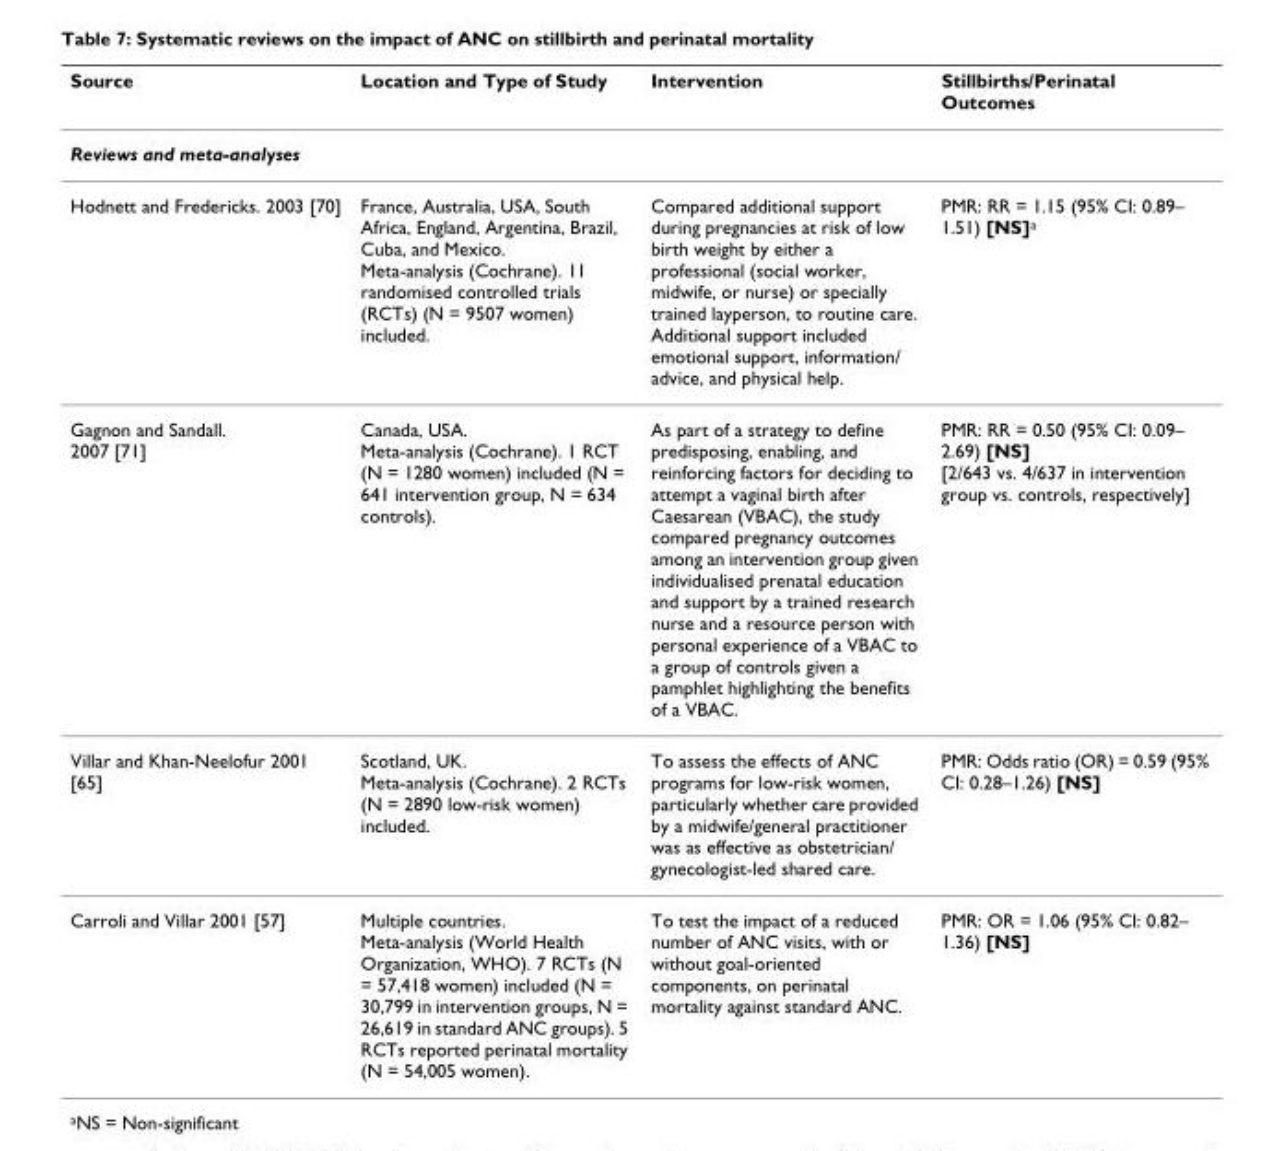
<table><thead><tr><td>Source</td><td>Location and Type of Study</td><td>Intervention</td><td>Stillbirths/Perinatal Outcomes</td></tr></thead><tbody><tr><td colspan="4">Reviews and meta-analyses</td></tr><tr><td>Hodnett and Fredericks. 2003 [70]</td><td>France, Australia, USA, South Africa, England, Argentina, Brazil, Cuba, and Mexico. Meta-analysis (Cochrane). 11 randomised controlled trials (RCTs) (N = 9507 women) included.</td><td>Compared additional support during pregnancies at risk of low birth weight by either a professional (social worker, midwife, or nurse) or specially trained layperson, to routine care. Additional support included emotional support, information/ advice, and physical help.</td><td>PMR: RR = 1.15 (95% CI: 0.89– 1.51) [NS]<sup>a</sup></td></tr><tr><td>Gagnon and Sandall. 2007 [71]</td><td>Canada, USA. Meta-analysis (Cochrane). 1 RCT (N = 1280 women) included (N = 641 intervention group, N = 634 controls).</td><td>As part of a strategy to define predisposing, enabling, and reinforcing factors for deciding to attempt a vaginal birth after Caesarean (VBAC), the study compared pregnancy outcomes among an intervention group given individualised prenatal education and support by a trained research nurse and a resource person with personal experience of a VBAC to a group of controls given a pamphlet highlighting the benefits of a VBAC.</td><td>PMR: RR = 0.50 (95% CI: 0.09– 2.69) [NS] [2/643 vs. 4/637 in intervention group vs. controls, respectively]</td></tr><tr><td>Villar and Khan-Neelofur 2001 [65]</td><td>Scotland, UK. Meta-analysis (Cochrane). 2 RCTs (N = 2890 low-risk women) included.</td><td>To assess the effects of ANC programs for low-risk women, particularly whether care provided by a midwife/general practitioner was as effective as obstetrician/ gynecologist-led shared care.</td><td>PMR: Odds ratio (OR) = 0.59 (95% CI: 0.28–1.26) [NS]</td></tr><tr><td>Carroli and Villar 2001 [57]</td><td>Multiple countries. Meta-analysis (World Health Organization, WHO). 7 RCTs (N = 57,418 women) included (N = 30,799 in intervention groups, N = 26,619 in standard ANC groups). 5 RCTs reported perinatal mortality (N = 54,005 women).</td><td>To test the impact of a reduced number of ANC visits, with or without goal-oriented components, on perinatal mortality against standard ANC.</td><td>PMR: OR = 1.06 (95% CI: 0.82– 1.36) [NS]</td></tr></tbody></table>